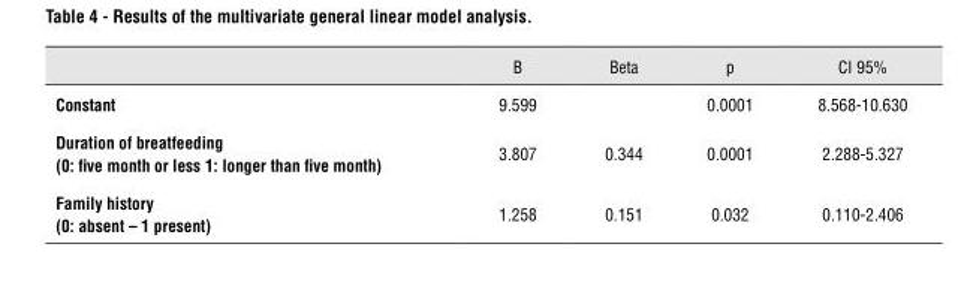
<table><thead><tr><td></td><td>B</td><td>Beta</td><td>p</td><td>CI 95%</td></tr></thead><tbody><tr><td>Constant</td><td>9.599</td><td></td><td>0.0001</td><td>8.568-10.630</td></tr><tr><td>Duration of breatfeeding (0: five month or less 1: longer than five month)</td><td>3.807</td><td>0.344</td><td>0.0001</td><td>2.288-5.327</td></tr><tr><td>family history (0: absent – 1 present)</td><td>1.258</td><td>0.151</td><td>0.032</td><td>0.110-2.406</td></tr></tbody></table>